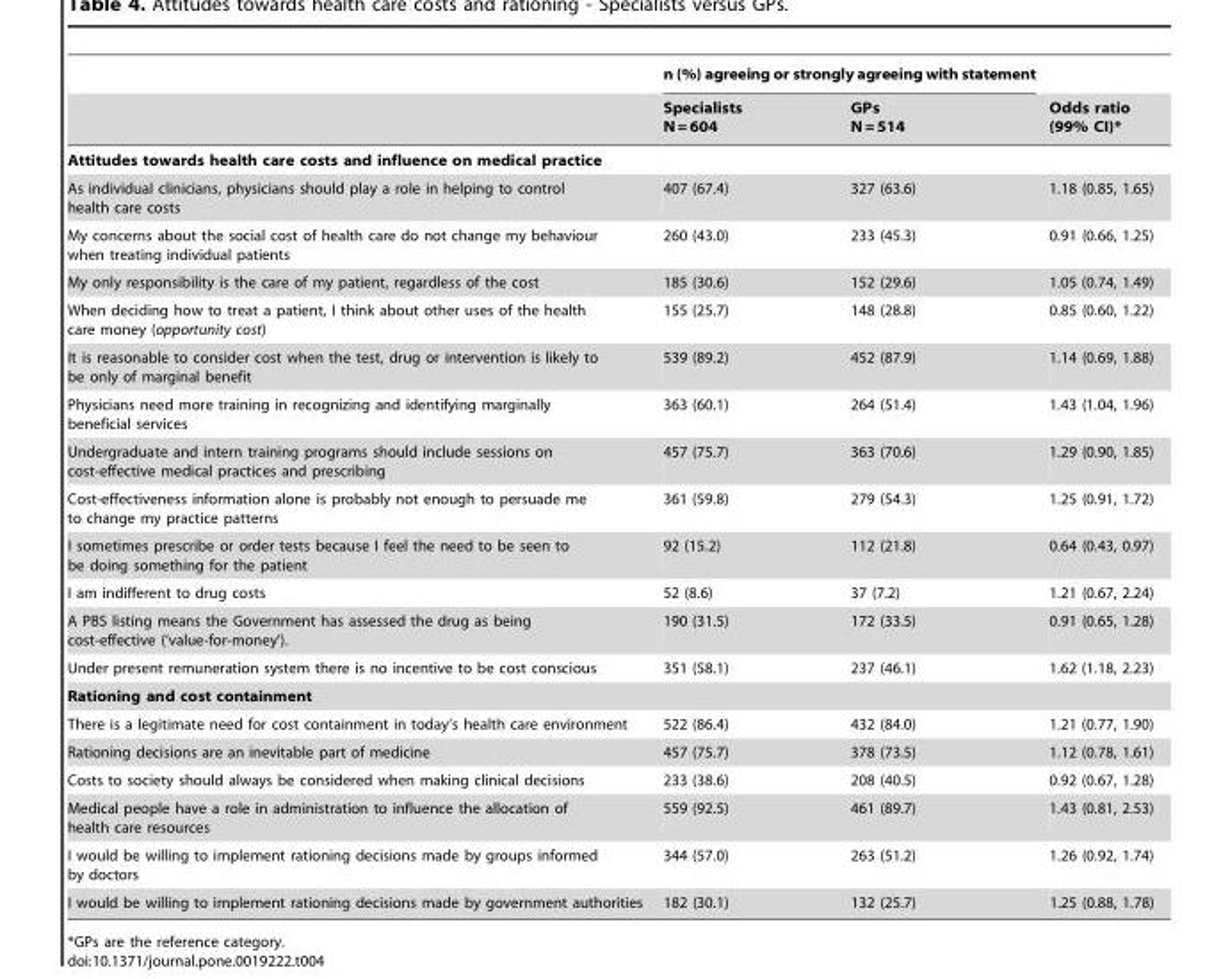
<table><thead><tr><td rowspan="2"></td><td colspan="2">n (%) agreeing or strongly agreeing with statement</td><td rowspan="2">Odds ratio (99% CI)*</td></tr><tr><td>Specialists N = 604</td><td>GPs N = 514</td></tr></thead><tbody><tr><td colspan="4">Attitudes towards health care costs and influence on medical practice</td></tr><tr><td>As individual clinicians, physicians should play a role in helping to control health care costs</td><td>407 (67.4)</td><td>327 (63.6)</td><td>1.18 (0.85, 1.65)</td></tr><tr><td>My concerns about the social cost of health care do not change my behaviour when treating individual patients</td><td>260 (43.0)</td><td>233 (45.3)</td><td>0.91 (0.66, 1.25)</td></tr><tr><td>My only responsibility is the care of my patient, regardless of the cost</td><td>185 (30.6)</td><td>152 (29.6)</td><td>1.05 (0.74, 1.49)</td></tr><tr><td>When deciding how to treat a patient, I think about other uses of the health care money (opportunity cost)</td><td>155 (25.7)</td><td>148 (28.8)</td><td>0.85 (0.60, 1.22)</td></tr><tr><td>It is reasonable to consider cost when the test, drug or intervention is likely to be only of marginal benefit</td><td>539 (89.2)</td><td>452 (87.9)</td><td>1.14 (0.69, 1.88)</td></tr><tr><td>Physicians need more training in recognizing and identifying marginally beneficial services</td><td>363 (60.1)</td><td>264 (51.4)</td><td>1.43 (1.04, 1.96)</td></tr><tr><td>Undergraduate and intern training programs should include sessions on cost-effective medical practices and prescribing</td><td>457 (75.7)</td><td>363 (70.6)</td><td>1.29 (0.90, 1.85)</td></tr><tr><td>Cost-effectiveness information alone is probably not enough to persuade me to change my practice patterns</td><td>361 (59.8)</td><td>279 (54.3)</td><td>1.25 (0.91, 1.72)</td></tr><tr><td>I sometimes prescribe or order tests because I feel the need to be seen to be doing something for the patient</td><td>92 (15.2)</td><td>112 (21.8)</td><td>0.64 (0.43, 0.97)</td></tr><tr><td>I am indifferent to drug costs</td><td>52 (8.6)</td><td>37 (7.2)</td><td>1.21 (0.67, 2.24)</td></tr><tr><td>A PBS listing means the Government has assessed the drug as being cost-effective (‘value-for-money’).</td><td>190 (31.5)</td><td>172 (33.5)</td><td>0.91 (0.65, 1.28)</td></tr><tr><td>Under present remuneration system there is no incentive to be cost conscious</td><td>351 (58.1)</td><td>237 (46.1)</td><td>1.62 (1.18, 2.23)</td></tr><tr><td colspan="4">Rationing and cost containment</td></tr><tr><td>There is a legitimate need for cost containment in today’s health care environment</td><td>522 (86.4)</td><td>432 (84.0)</td><td>1.21 (0.77, 1.90)</td></tr><tr><td>Rationing decisions are an inevitable part of medicine</td><td>457 (75.7)</td><td>378 (73.5)</td><td>1.12 (0.78, 1.61)</td></tr><tr><td>Costs to society should always be considered when making clinical decisions</td><td>233 (38.6)</td><td>208 (40.5)</td><td>0.92 (0.67, 1.28)</td></tr><tr><td>Medical people have a role in administration to influence the allocation of health care resources</td><td>559 (92.5)</td><td>461 (89.7)</td><td>1.43 (0.81, 2.53)</td></tr><tr><td>I would be willing to implement rationing decisions made by groups informed by doctors</td><td>344 (57.0)</td><td>263 (51.2)</td><td>1.26 (0.92, 1.74)</td></tr><tr><td>I would be willing to implement rationing decisions made by government authorities</td><td>182 (30.1)</td><td>132 (25.7)</td><td>1.25 (0.88, 1.78)</td></tr></tbody></table>